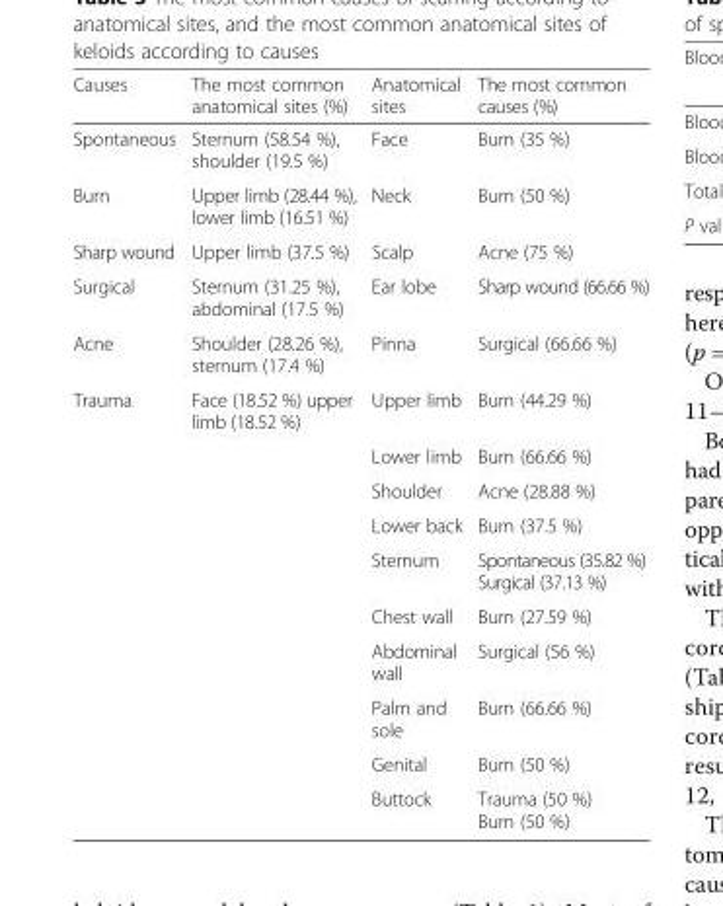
<table><thead><tr><td>Causes</td><td>The most common anatomical sites (%)</td><td>Anatomical sites</td><td>The most common causes (%)</td></tr></thead><tbody><tr><td>Spontaneous</td><td>Sternum (58.54 %), shoulder (19.5 %)</td><td>Face</td><td>Burn (35 %)</td></tr><tr><td>Burn</td><td>Upper limb (28.44 %), lower limb (16.51 %)</td><td>Neck</td><td>Burn (50 %)</td></tr><tr><td>Sharp wound</td><td>Upper limb (37.5 %)</td><td>Scalp</td><td>Acne (75 %)</td></tr><tr><td>Surgical</td><td>Sternum (31.25 %), abdominal (17.5 %)</td><td>Ear lobe</td><td>Sharp wound (66.66 %)</td></tr><tr><td>Acne</td><td>Shoulder (28.26 %), sternum (17.4 %)</td><td>Pinna</td><td>Surgical (66.66 %)</td></tr><tr><td rowspan="10">Trauma</td><td>Face (18.52 %) upper limb (18.52 %)</td><td>Upper limb</td><td>Burn (44.29 %)</td></tr><tr><td></td><td>Lower limb</td><td>Burn (66.66 %)</td></tr><tr><td></td><td>Shoulder</td><td>Acne (28.88 %)</td></tr><tr><td></td><td>Lower back</td><td>Burn (37.5 %)</td></tr><tr><td></td><td>Sternum</td><td>Spontaneous (35.82 %) Surgical (37.13 %)</td></tr><tr><td></td><td>Chest wall</td><td>Burn (27.59 %)</td></tr><tr><td></td><td>Abdominal wall</td><td>Surgical (56 %)</td></tr><tr><td></td><td>Palm and sole</td><td>Burn (66.66 %)</td></tr><tr><td></td><td>Genital</td><td>Burn (50 %)</td></tr><tr><td></td><td>Buttock</td><td>Trauma (50 %) Burn (50 %)</td></tr></tbody></table>